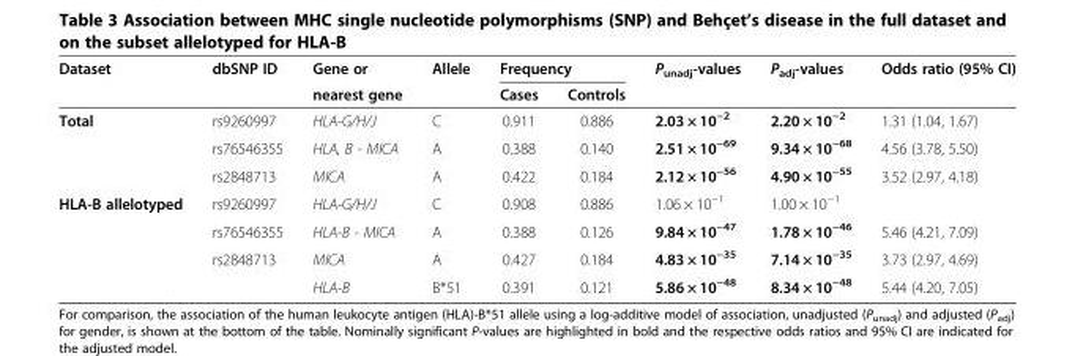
<table><thead><tr><td rowspan="2">Dataset</td><td rowspan="2">dbSNP ID</td><td rowspan="2">Gene or nearest gene</td><td rowspan="2">Allele</td><td colspan="2">Frequency</td><td rowspan="2">P<sub>unadj</sub>-values</td><td rowspan="2">P<sub>adj</sub>-values</td><td rowspan="2">Odds ratio (95% CI)</td></tr><tr><td>Cases</td><td>Controls</td></tr></thead><tbody><tr><td rowspan="3">Total</td><td>rs9260997</td><td>HLA-G/H/J</td><td>C</td><td>0.911</td><td>0.886</td><td>2.03 × 10<sup>−2</sup></td><td>2.20 × 10<sup>−2</sup></td><td>1.31 (1.04, 1.67)</td></tr><tr><td>rs76546355</td><td>HLA, B - MICA</td><td>A</td><td>0.388</td><td>0.140</td><td>2.51 × 10<sup>−69</sup></td><td>9.34 × 10<sup>−68</sup></td><td>4.56 (3.78, 5.50)</td></tr><tr><td>rs2848713</td><td>MICA</td><td>A</td><td>0.422</td><td>0.184</td><td>2.12 × 10<sup>−56</sup></td><td>4.90 × 10<sup>−55</sup></td><td>3.52 (2.97, 4.18)</td></tr><tr><td rowspan="4">HLA-B allelotyped</td><td>rs9260997</td><td>HLA-G/H/J</td><td>C</td><td>0.908</td><td>0.886</td><td>1.06 × 10<sup>−1</sup></td><td>1.00 × 10<sup>−1</sup></td><td></td></tr><tr><td>rs76546355</td><td>HLA-B - MICA</td><td>A</td><td>0.388</td><td>0.126</td><td>9.84 × 10<sup>−47</sup></td><td>1.78 × 10<sup>−46</sup></td><td>5.46 (4.21, 7.09)</td></tr><tr><td>rs2848713</td><td>MICA</td><td>A</td><td>0.427</td><td>0.184</td><td>4.83 × 10<sup>−35</sup></td><td>7.14 × 10<sup>−35</sup></td><td>3.73 (2.97, 4.69)</td></tr><tr><td></td><td>HLA-B</td><td>B*51</td><td>0.391</td><td>0.121</td><td>5.86 × 10<sup>−48</sup></td><td>8.34 × 10<sup>−48</sup></td><td>5.44 (4.20, 7.05)</td></tr></tbody></table>